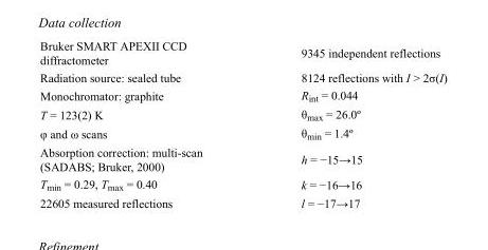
<table><tbody><tr><td>Bruker SMART APEXII CCD diffractometer</td><td>9345 independent reflections</td></tr><tr><td>Radiation source: sealed tube</td><td>8124 reflections with I &gt; 2σ(I)</td></tr><tr><td>Monochromator: graphite</td><td>R<sub>int</sub> = 0.044</td></tr><tr><td>T = 123(2) K</td><td>θ<sub>max</sub> = 26.0º</td></tr><tr><td>φ and ω scans</td><td>θ<sub>min</sub> = 1.4º</td></tr><tr><td>Absorption correction: multi-scan (SADABS; Bruker, 2000)</td><td>h = −15→15</td></tr><tr><td>T<sub>min</sub> = 0.29, T<sub>max</sub> = 0.40</td><td>k = −16→16</td></tr><tr><td>22605 measured reflections</td><td>l = −17→17</td></tr></tbody></table>